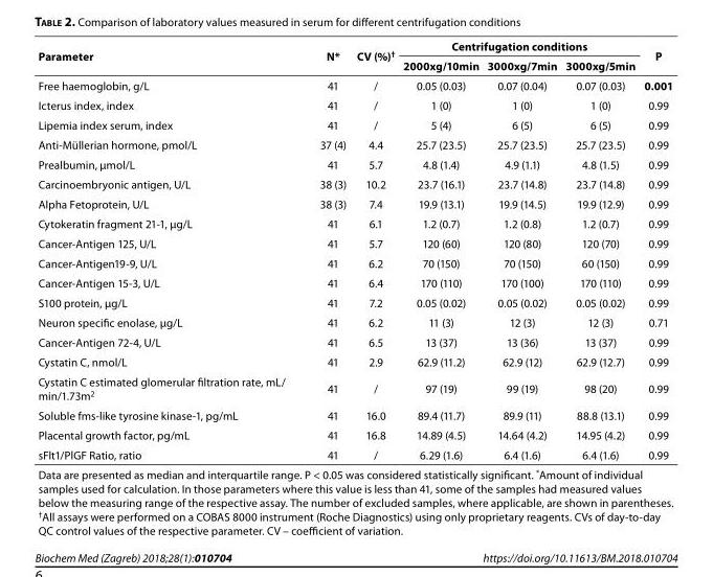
<table><thead><tr><td rowspan="2">Parameter</td><td rowspan="2">N*</td><td rowspan="2">CV (%)<sup>†</sup></td><td colspan="3">Centrifugation conditions</td><td rowspan="2">P</td></tr><tr><td>2000xg/10min</td><td>3000xg/7min</td><td>3000xg/5min</td></tr></thead><tbody><tr><td>Free haemoglobin, g/L</td><td>41</td><td>/</td><td>0.05 (0.03)</td><td>0.07 (0.04)</td><td>0.07 (0.03)</td><td>0.001</td></tr><tr><td>Icterus index, index</td><td>41</td><td>/</td><td>1 (0)</td><td>1 (0)</td><td>1 (0)</td><td>0.99</td></tr><tr><td>Lipemia index serum, index</td><td>41</td><td>/</td><td>5 (4)</td><td>6 (5)</td><td>6 (5)</td><td>0.99</td></tr><tr><td>Anti-Müllerian hormone, pmol/L</td><td>37 (4)</td><td>4.4</td><td>25.7 (23.5)</td><td>25.7 (23.5)</td><td>25.7 (23.5)</td><td>0.99</td></tr><tr><td>Prealbumin, µmol/L</td><td>41</td><td>5.7</td><td>4.8 (1.4)</td><td>4.9 (1.1)</td><td>4.8 (1.5)</td><td>0.99</td></tr><tr><td>Carcinoembryonic antigen, U/L</td><td>38 (3)</td><td>10.2</td><td>23.7 (16.1)</td><td>23.7 (14.8)</td><td>23.7 (14.8)</td><td>0.99</td></tr><tr><td>Alpha Fetoprotein, U/L</td><td>38 (3)</td><td>7.4</td><td>19.9 (13.1)</td><td>19.9 (14.5)</td><td>19.9 (12.9)</td><td>0.99</td></tr><tr><td>Cytokeratin fragment 21-1, µg/L</td><td>41</td><td>6.1</td><td>1.2 (0.7)</td><td>1.2 (0.8)</td><td>1.2 (0.7)</td><td>0.99</td></tr><tr><td>Cancer-Antigen 125, U/L</td><td>41</td><td>5.7</td><td>120 (60)</td><td>120 (80)</td><td>120 (70)</td><td>0.99</td></tr><tr><td>Cancer-Antigen19-9, U/L</td><td>41</td><td>6.2</td><td>70 (150)</td><td>70 (150)</td><td>60 (150)</td><td>0.99</td></tr><tr><td>Cancer-Antigen 15-3, U/L</td><td>41</td><td>6.4</td><td>170 (110)</td><td>170 (100)</td><td>170 (110)</td><td>0.99</td></tr><tr><td>S100 protein, µg/L</td><td>41</td><td>7.2</td><td>0.05 (0.02)</td><td>0.05 (0.02)</td><td>0.05 (0.02)</td><td>0.99</td></tr><tr><td>Neuron specific enolase, µg/L</td><td>41</td><td>6.2</td><td>11 (3)</td><td>12 (3)</td><td>12 (3)</td><td>0.71</td></tr><tr><td>Cancer-Antigen 72-4, U/L</td><td>41</td><td>6.5</td><td>13 (37)</td><td>13 (36)</td><td>13 (37)</td><td>0.99</td></tr><tr><td>Cystatin C, nmol/L</td><td>41</td><td>2.9</td><td>62.9 (11.2)</td><td>62.9 (12)</td><td>62.9 (12.7)</td><td>0.99</td></tr><tr><td>Cystatin C estimated glomerular filtration rate, mL/ min/1.73m<sup>2</sup></td><td>41</td><td>/</td><td>97 (19)</td><td>99 (19)</td><td>98 (20)</td><td>0.99</td></tr><tr><td>Soluble fms-like tyrosine kinase-1, pg/mL</td><td>41</td><td>16.0</td><td>89.4 (11.7)</td><td>89.9 (11)</td><td>88.8 (13.1)</td><td>0.99</td></tr><tr><td>Placental growth factor, pg/mL</td><td>41</td><td>16.8</td><td>14.89 (4.5)</td><td>14.64 (4.2)</td><td>14.95 (4.2)</td><td>0.99</td></tr><tr><td>sFlt1/PlGF Ratio, ratio</td><td>41</td><td>/</td><td>6.29 (1.6)</td><td>6.4 (1.6)</td><td>6.4 (1.6)</td><td>0.99</td></tr><tr><td colspan="7">Data are presented as median and interquartile range. P &lt; 0.05 was considered statistically significant. *Amount of individual samples used for calculation. In those parameters where this value is less than 41, some of the samples had measured values below the measuring range of the respective assay. The number of excluded samples, where applicable, are shown in parentheses. <sup>†</sup>All assays were performed on a COBAS 8000 instrument (Roche Diagnostics) using only proprietary reagents. CVs of day-to-day QC control values of the respective parameter. CV – coefficient of variation.</td></tr></tbody></table>